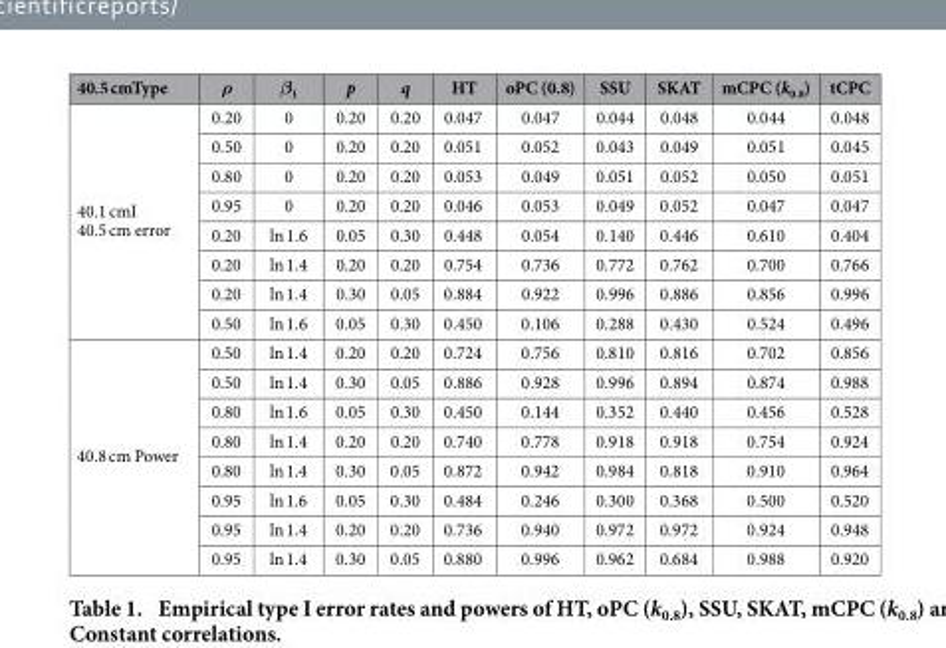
<table><thead><tr><td>40.5 cmType</td><td>ρ</td><td>β<sub>1</sub></td><td>p</td><td>q</td><td>HT</td><td>oPC (0.8)</td><td>SSU</td><td>SKAT</td><td>mCPC (k<sub>0.8</sub>)</td><td>tCPC</td></tr></thead><tbody><tr><td rowspan="8">40.1 cmI 40.5 cm error</td><td>0.20</td><td>0</td><td>0.20</td><td>0.20</td><td>0.047</td><td>0.047</td><td>0.044</td><td>0.048</td><td>0.044</td><td>0.048</td></tr><tr><td>0.50</td><td>0</td><td>0.20</td><td>0.20</td><td>0.051</td><td>0.052</td><td>0.043</td><td>0.049</td><td>0.051</td><td>0.045</td></tr><tr><td>0.80</td><td>0</td><td>0.20</td><td>0.20</td><td>0.053</td><td>0.049</td><td>0.051</td><td>0.052</td><td>0.050</td><td>0.051</td></tr><tr><td>0.95</td><td>0</td><td>0.20</td><td>0.20</td><td>0.046</td><td>0.053</td><td>0.049</td><td>0.052</td><td>0.047</td><td>0.047</td></tr><tr><td>0.20</td><td>ln 1.6</td><td>0.05</td><td>0.30</td><td>0.448</td><td>0.054</td><td>0.140</td><td>0.446</td><td>0.610</td><td>0.404</td></tr><tr><td>0.20</td><td>ln 1.4</td><td>0.20</td><td>0.20</td><td>0.754</td><td>0.736</td><td>0.772</td><td>0.762</td><td>0.700</td><td>0.766</td></tr><tr><td>0.20</td><td>ln 1.4</td><td>0.30</td><td>0.05</td><td>0.884</td><td>0.922</td><td>0.996</td><td>0.886</td><td>0.856</td><td>0.996</td></tr><tr><td>0.50</td><td>ln 1.6</td><td>0.05</td><td>0.30</td><td>0.450</td><td>0.106</td><td>0.288</td><td>0.430</td><td>0.524</td><td>0.496</td></tr><tr><td rowspan="8">40.8 cm Power</td><td>0.50</td><td>ln 1.4</td><td>0.20</td><td>0.20</td><td>0.724</td><td>0.756</td><td>0.810</td><td>0.816</td><td>0.702</td><td>0.856</td></tr><tr><td>0.50</td><td>ln 1.4</td><td>0.30</td><td>0.05</td><td>0.886</td><td>0.928</td><td>0.996</td><td>0.894</td><td>0.874</td><td>0.988</td></tr><tr><td>0.80</td><td>ln 1.6</td><td>0.05</td><td>0.30</td><td>0.450</td><td>0.144</td><td>0.352</td><td>0.440</td><td>0.456</td><td>0.528</td></tr><tr><td>0.80</td><td>ln 1.4</td><td>0.20</td><td>0.20</td><td>0.740</td><td>0.778</td><td>0.918</td><td>0.918</td><td>0.754</td><td>0.924</td></tr><tr><td>0.80</td><td>ln 1.4</td><td>0.30</td><td>0.05</td><td>0.872</td><td>0.942</td><td>0.984</td><td>0.818</td><td>0.910</td><td>0.964</td></tr><tr><td>0.95</td><td>ln 1.6</td><td>0.05</td><td>0.30</td><td>0.484</td><td>0.246</td><td>0.300</td><td>0.368</td><td>0.500</td><td>0.520</td></tr><tr><td>0.95</td><td>ln 1.4</td><td>0.20</td><td>0.20</td><td>0.736</td><td>0.940</td><td>0.972</td><td>0.972</td><td>0.924</td><td>0.948</td></tr><tr><td>0.95</td><td>ln 1.4</td><td>0.30</td><td>0.05</td><td>0.880</td><td>0.996</td><td>0.962</td><td>0.684</td><td>0.988</td><td>0.920</td></tr></tbody></table>